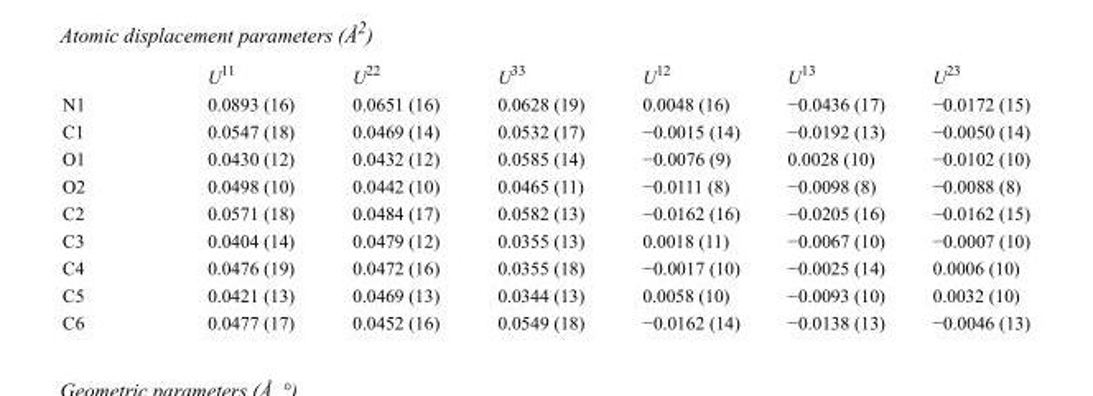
<table><thead><tr><td></td><td>U<sup>11</sup></td><td>U<sup>22</sup></td><td>U<sup>33</sup></td><td>U<sup>12</sup></td><td>U<sup>13</sup></td><td>U<sup>23</sup></td></tr></thead><tbody><tr><td>N1</td><td>0.0893 (16)</td><td>0.0651 (16)</td><td>0.0628 (19)</td><td>0.0048 (16)</td><td>−0.0436 (17)</td><td>−0.0172 (15)</td></tr><tr><td>C1</td><td>0.0547 (18)</td><td>0.0469 (14)</td><td>0.0532 (17)</td><td>−0.0015 (14)</td><td>−0.0192 (13)</td><td>−0.0050 (14)</td></tr><tr><td>O1</td><td>0.0430 (12)</td><td>0.0432 (12)</td><td>0.0585 (14)</td><td>−0.0076 (9)</td><td>0.0028 (10)</td><td>−0.0102 (10)</td></tr><tr><td>O2</td><td>0.0498 (10)</td><td>0.0442 (10)</td><td>0.0465 (11)</td><td>−0.0111 (8)</td><td>−0.0098 (8)</td><td>−0.0088 (8)</td></tr><tr><td>C2</td><td>0.0571 (18)</td><td>0.0484 (17)</td><td>0.0582 (13)</td><td>−0.0162 (16)</td><td>−0.0205 (16)</td><td>−0.0162 (15)</td></tr><tr><td>C3</td><td>0.0404 (14)</td><td>0.0479 (12)</td><td>0.0355 (13)</td><td>0.0018 (11)</td><td>−0.0067 (10)</td><td>−0.0007 (10)</td></tr><tr><td>C4</td><td>0.0476 (19)</td><td>0.0472 (16)</td><td>0.0355 (18)</td><td>−0.0017 (10)</td><td>−0.0025 (14)</td><td>0.0006 (10)</td></tr><tr><td>C5</td><td>0.0421 (13)</td><td>0.0469 (13)</td><td>0.0344 (13)</td><td>0.0058 (10)</td><td>−0.0093 (10)</td><td>0.0032 (10)</td></tr><tr><td>C6</td><td>0.0477 (17)</td><td>0.0452 (16)</td><td>0.0549 (18)</td><td>−0.0162 (14)</td><td>−0.0138 (13)</td><td>−0.0046 (13)</td></tr></tbody></table>